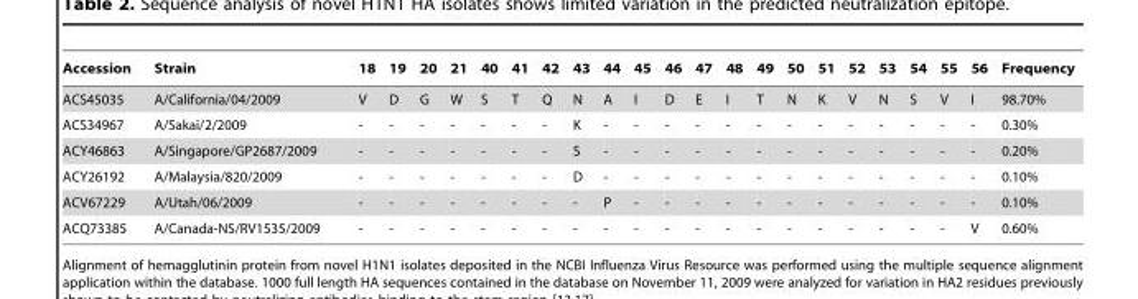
<table><thead><tr><td>Accession</td><td>Strain</td><td>18</td><td>19</td><td>20</td><td>21</td><td>40</td><td>41</td><td>42</td><td>43</td><td>44</td><td>45</td><td>46</td><td>47</td><td>48</td><td>49</td><td>50</td><td>51</td><td>52</td><td>53</td><td>54</td><td>55</td><td>56</td><td>Frequency</td></tr></thead><tbody><tr><td>ACS45035</td><td>A/California/04/2009</td><td>V</td><td>D</td><td>G</td><td>W</td><td>S</td><td>T</td><td>Q</td><td>N</td><td>A</td><td>I</td><td>D</td><td>E</td><td>I</td><td>T</td><td>N</td><td>K</td><td>V</td><td>N</td><td>S</td><td>V</td><td>I</td><td>98.70%</td></tr><tr><td>ACS34967</td><td>A/Sakai/2/2009</td><td>-</td><td>-</td><td>-</td><td>-</td><td>-</td><td>-</td><td>-</td><td>K</td><td>-</td><td>-</td><td>-</td><td>-</td><td>-</td><td>-</td><td>-</td><td>-</td><td>-</td><td>-</td><td>-</td><td>-</td><td>-</td><td>0.30%</td></tr><tr><td>ACY46863</td><td>A/Singapore/GP2687/2009</td><td>-</td><td>-</td><td>-</td><td>-</td><td>-</td><td>-</td><td>-</td><td>S</td><td>-</td><td>-</td><td>-</td><td>-</td><td>-</td><td>-</td><td>-</td><td>-</td><td>-</td><td>-</td><td>-</td><td>-</td><td>-</td><td>0.20%</td></tr><tr><td>ACY26192</td><td>A/Malaysia/820/2009</td><td>-</td><td>-</td><td>-</td><td>-</td><td>-</td><td>-</td><td>-</td><td>D</td><td>-</td><td>-</td><td>-</td><td>-</td><td>-</td><td>-</td><td>-</td><td>-</td><td>-</td><td>-</td><td>-</td><td>-</td><td>-</td><td>0.10%</td></tr><tr><td>ACV67229</td><td>A/Utah/06/2009</td><td>-</td><td>-</td><td>-</td><td>-</td><td>-</td><td>-</td><td>-</td><td>-</td><td>P</td><td>-</td><td>-</td><td>-</td><td>-</td><td>-</td><td>-</td><td>-</td><td>-</td><td>-</td><td>-</td><td>-</td><td>-</td><td>0.10%</td></tr><tr><td>ACQ73385</td><td>A/Canada-NS/RV1535/2009</td><td>-</td><td>-</td><td>-</td><td>-</td><td>-</td><td>-</td><td>-</td><td>-</td><td>-</td><td>-</td><td>-</td><td>-</td><td>-</td><td>-</td><td>-</td><td>-</td><td>-</td><td>-</td><td>-</td><td>-</td><td>V</td><td>0.60%</td></tr></tbody></table>